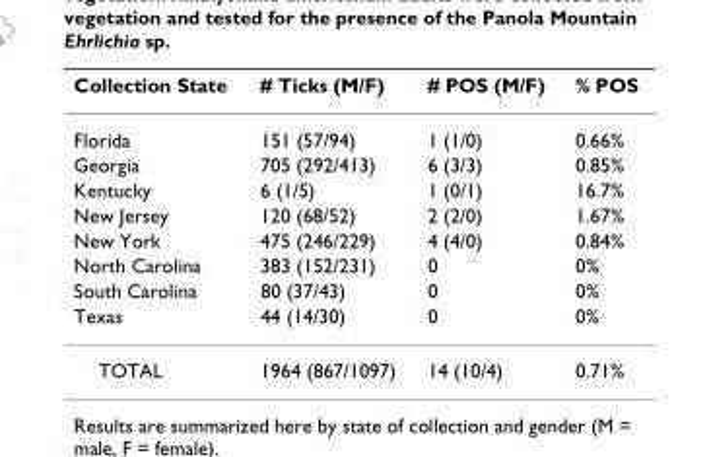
<table><thead><tr><td>Collection State</td><td># Ticks (M/F)</td><td># POS (M/F)</td><td>% POS</td></tr></thead><tbody><tr><td>Florida</td><td>151 (57/94)</td><td>1 (1/0)</td><td>0.66%</td></tr><tr><td>Georgia</td><td>705 (292/413)</td><td>6 (3/3)</td><td>0.85%</td></tr><tr><td>Kentucky</td><td>6 (1/5)</td><td>1 (0/1)</td><td>16.7%</td></tr><tr><td>New Jersey</td><td>120 (68/52)</td><td>2 (2/0)</td><td>1.67%</td></tr><tr><td>New York</td><td>475 (246/229)</td><td>4 (4/0)</td><td>0.84%</td></tr><tr><td>North Carolina</td><td>383 (152/231)</td><td>0</td><td>0%</td></tr><tr><td>South Carolina</td><td>80 (37/43)</td><td>0</td><td>0%</td></tr><tr><td>Texas</td><td>44 (14/30)</td><td>0</td><td>0%</td></tr><tr><td>TOTAL</td><td>1964 (867/1097)</td><td>14 (10/4)</td><td>0.71%</td></tr></tbody></table>